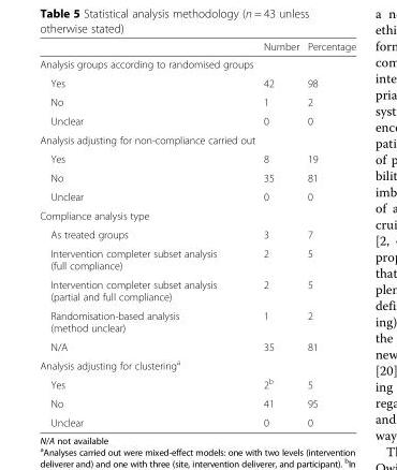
<table><thead><tr><td></td><td>Number</td><td>Percentage</td></tr></thead><tbody><tr><td colspan="3">Analysis groups according to randomised groups</td></tr><tr><td>Yes</td><td>42</td><td>98</td></tr><tr><td>No</td><td>1</td><td>2</td></tr><tr><td>Unclear</td><td>0</td><td>0</td></tr><tr><td colspan="3">Analysis adjusting for non-compliance carried out</td></tr><tr><td>Yes</td><td>8</td><td>19</td></tr><tr><td>No</td><td>35</td><td>81</td></tr><tr><td>Unclear</td><td>0</td><td>0</td></tr><tr><td colspan="3">Compliance analysis type</td></tr><tr><td>As treated groups</td><td>3</td><td>7</td></tr><tr><td>Intervention completer subset analysis (full compliance)</td><td>2</td><td>5</td></tr><tr><td>Intervention completer subset analysis (partial and full compliance)</td><td>2</td><td>5</td></tr><tr><td>Randomisation-based analysis (method unclear)</td><td>1</td><td>2</td></tr><tr><td>N/A</td><td>35</td><td>81</td></tr><tr><td colspan="3">Analysis adjusting for clustering<sup>a</sup></td></tr><tr><td>Yes</td><td>2<sup>b</sup></td><td>5</td></tr><tr><td>No</td><td>41</td><td>95</td></tr><tr><td>Unclear</td><td>0</td><td>0</td></tr></tbody></table>